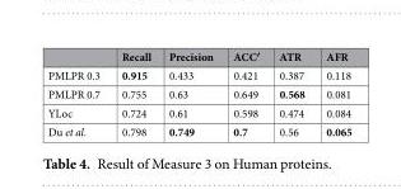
<table><thead><tr><td></td><td>Recall</td><td>Precision</td><td>ACC′</td><td>ATR</td><td>AFR</td></tr></thead><tbody><tr><td>PMLPR 0.3</td><td>0.915</td><td>0.433</td><td>0.421</td><td>0.387</td><td>0.118</td></tr><tr><td>PMLPR 0.7</td><td>0.755</td><td>0.63</td><td>0.649</td><td>0.568</td><td>0.081</td></tr><tr><td>YLoc</td><td>0.724</td><td>0.61</td><td>0.598</td><td>0.474</td><td>0.084</td></tr><tr><td>Du et al.</td><td>0.798</td><td>0.749</td><td>0.7</td><td>0.56</td><td>0.065</td></tr></tbody></table>